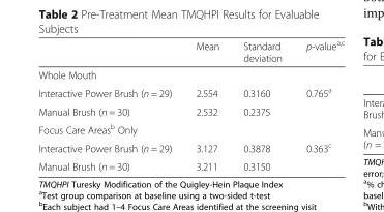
<table><thead><tr><td></td><td>Mean</td><td>Standard deviation</td><td>p-value<sup>a,c</sup></td></tr></thead><tbody><tr><td colspan="4">Whole Mouth</td></tr><tr><td>Interactive Power Brush (n = 29)</td><td>2.554</td><td>0.3160</td><td>0.765<sup>a</sup></td></tr><tr><td>Manual Brush (n = 30)</td><td>2.532</td><td>0.2375</td><td></td></tr><tr><td colspan="4">Focus Care Areas<sup>b</sup> Only</td></tr><tr><td>Interactive Power Brush (n = 29)</td><td>3.127</td><td>0.3878</td><td>0.363<sup>c</sup></td></tr><tr><td>Manual Brush (n = 30)</td><td>3.211</td><td>0.3150</td><td></td></tr></tbody></table>